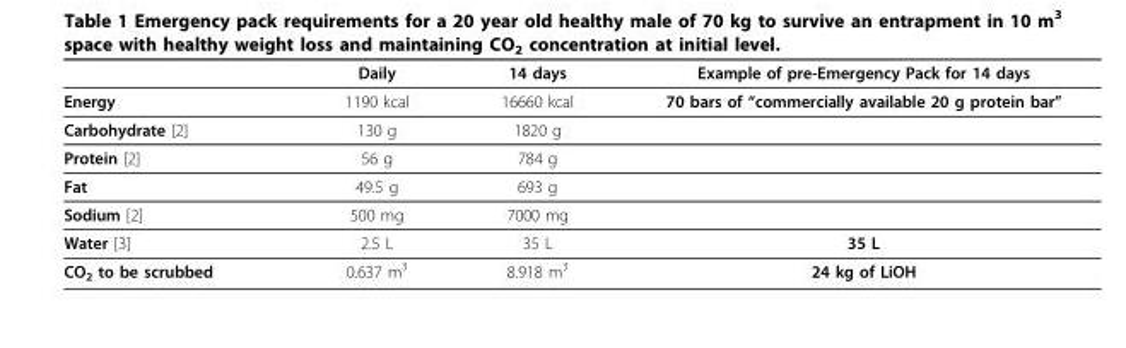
<table><thead><tr><td></td><td>Daily</td><td>14 days</td><td>Example of pre-Emergency Pack for 14 days</td></tr></thead><tbody><tr><td>Energy</td><td>1190 kcal</td><td>16660 kcal</td><td>70 bars of “commercially available 20 g protein bar”</td></tr><tr><td>Carbohydrate [2]</td><td>130 g</td><td>1820 g</td><td></td></tr><tr><td>Protein [2]</td><td>56 g</td><td>784 g</td><td></td></tr><tr><td>Fat</td><td>49.5 g</td><td>693 g</td><td></td></tr><tr><td>Sodium [2]</td><td>500 mg</td><td>7000 mg</td><td></td></tr><tr><td>Water [3]</td><td>2.5 L</td><td>35 L</td><td>35 L</td></tr><tr><td>CO<sub>2</sub> to be scrubbed</td><td>0.637 m<sup>3</sup></td><td>8.918 m<sup>3</sup></td><td>24 kg of LiOH</td></tr></tbody></table>